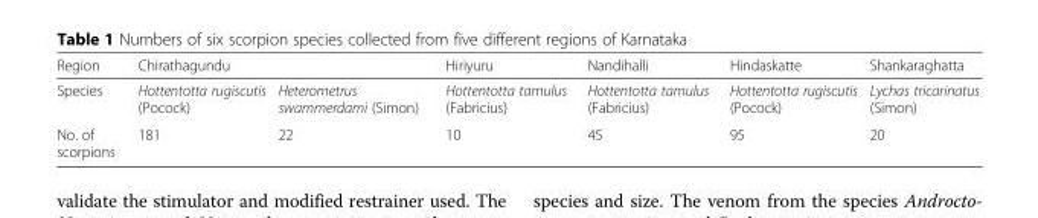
<table><thead><tr><td rowspan="2">Region Species</td><td colspan="2">Chirathagundu</td><td rowspan="2">Hiriyuru Hottentotta tamulus (Fabricius)</td><td rowspan="2">Nandihalli Hottentotta tamulus (Fabricius)</td><td rowspan="2">Hindaskatte Hottentotta rugiscutis (Pocock)</td><td rowspan="2">Shankaraghatta Lychas tricarinatus (Simon)</td></tr><tr><td>Hottentotta rugiscutis (Pocock)</td><td>Heterometrus swammerdami (Simon)</td></tr></thead><tbody><tr><td>No. of scorpions</td><td>181</td><td>22</td><td>10</td><td>45</td><td>95</td><td>20</td></tr></tbody></table>